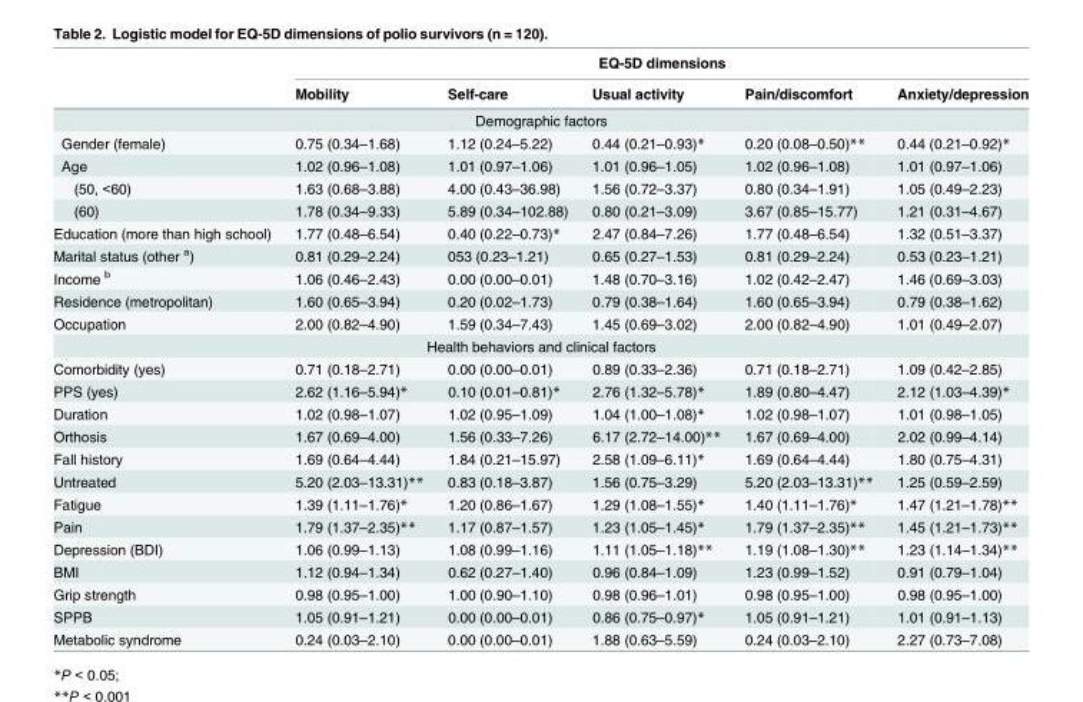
<table><thead><tr><td rowspan="2"></td><td colspan="5">EQ-5D dimensions</td></tr><tr><td>Mobility</td><td>Self-care</td><td>Usual activity</td><td>Pain/discomfort</td><td>Anxiety/depression</td></tr></thead><tbody><tr><td colspan="6">Demographic factors</td></tr><tr><td>Gender (female)</td><td>0.75 (0.34–1.68)</td><td>1.12 (0.24–5.22)</td><td>0.44 (0.21–0.93)*</td><td>0.20 (0.08–0.50)**</td><td>0.44 (0.21–0.92)*</td></tr><tr><td>Age</td><td>1.02 (0.96–1.08)</td><td>1.01 (0.97–1.06)</td><td>1.01 (0.96–1.05)</td><td>1.02 (0.96–1.08)</td><td>1.01 (0.97–1.06)</td></tr><tr><td>(50, &lt;60)</td><td>1.63 (0.68–3.88)</td><td>4.00 (0.43–36.98)</td><td>1.56 (0.72–3.37)</td><td>0.80 (0.34–1.91)</td><td>1.05 (0.49–2.23)</td></tr><tr><td>(60)</td><td>1.78 (0.34–9.33)</td><td>5.89 (0.34–102.88)</td><td>0.80 (0.21–3.09)</td><td>3.67 (0.85–15.77)</td><td>1.21 (0.31–4.67)</td></tr><tr><td>Education (more than high school)</td><td>1.77 (0.48–6.54)</td><td>0.40 (0.22–0.73)*</td><td>2.47 (0.84–7.26)</td><td>1.77 (0.48–6.54)</td><td>1.32 (0.51–3.37)</td></tr><tr><td>Marital status (other <sup>a</sup>)</td><td>0.81 (0.29–2.24)</td><td>053 (0.23–1.21)</td><td>0.65 (0.27–1.53)</td><td>0.81 (0.29–2.24)</td><td>0.53 (0.23–1.21)</td></tr><tr><td>Income <sup>b</sup></td><td>1.06 (0.46–2.43)</td><td>0.00 (0.00–0.01)</td><td>1.48 (0.70–3.16)</td><td>1.02 (0.42–2.47)</td><td>1.46 (0.69–3.03)</td></tr><tr><td>Residence (metropolitan)</td><td>1.60 (0.65–3.94)</td><td>0.20 (0.02–1.73)</td><td>0.79 (0.38–1.64)</td><td>1.60 (0.65–3.94)</td><td>0.79 (0.38–1.62)</td></tr><tr><td>Occupation</td><td>2.00 (0.82–4.90)</td><td>1.59 (0.34–7.43)</td><td>1.45 (0.69–3.02)</td><td>2.00 (0.82–4.90)</td><td>1.01 (0.49–2.07)</td></tr><tr><td colspan="6">Health behaviors and clinical factors</td></tr><tr><td>Comorbidity (yes)</td><td>0.71 (0.18–2.71)</td><td>0.00 (0.00–0.01)</td><td>0.89 (0.33–2.36)</td><td>0.71 (0.18–2.71)</td><td>1.09 (0.42–2.85)</td></tr><tr><td>PPS (yes)</td><td>2.62 (1.16–5.94)*</td><td>0.10 (0.01–0.81)*</td><td>2.76 (1.32–5.78)*</td><td>1.89 (0.80–4.47)</td><td>2.12 (1.03–4.39)*</td></tr><tr><td>Duration</td><td>1.02 (0.98–1.07)</td><td>1.02 (0.95–1.09)</td><td>1.04 (1.00–1.08)*</td><td>1.02 (0.98–1.07)</td><td>1.01 (0.98–1.05)</td></tr><tr><td>Orthosis</td><td>1.67 (0.69–4.00)</td><td>1.56 (0.33–7.26)</td><td>6.17 (2.72–14.00)**</td><td>1.67 (0.69–4.00)</td><td>2.02 (0.99–4.14)</td></tr><tr><td>Fall history</td><td>1.69 (0.64–4.44)</td><td>1.84 (0.21–15.97)</td><td>2.58 (1.09–6.11)*</td><td>1.69 (0.64–4.44)</td><td>1.80 (0.75–4.31)</td></tr><tr><td>Untreated</td><td>5.20 (2.03–13.31)**</td><td>0.83 (0.18–3.87)</td><td>1.56 (0.75–3.29)</td><td>5.20 (2.03–13.31)**</td><td>1.25 (0.59–2.59)</td></tr><tr><td>Fatigue</td><td>1.39 (1.11–1.76)*</td><td>1.20 (0.86–1.67)</td><td>1.29 (1.08–1.55)*</td><td>1.40 (1.11–1.76)*</td><td>1.47 (1.21–1.78)**</td></tr><tr><td>Pain</td><td>1.79 (1.37–2.35)**</td><td>1.17 (0.87–1.57)</td><td>1.23 (1.05–1.45)*</td><td>1.79 (1.37–2.35)**</td><td>1.45 (1.21–1.73)**</td></tr><tr><td>Depression (BDI)</td><td>1.06 (0.99–1.13)</td><td>1.08 (0.99–1.16)</td><td>1.11 (1.05–1.18)**</td><td>1.19 (1.08–1.30)**</td><td>1.23 (1.14–1.34)**</td></tr><tr><td>BMI</td><td>1.12 (0.94–1.34)</td><td>0.62 (0.27–1.40)</td><td>0.96 (0.84–1.09)</td><td>1.23 (0.99–1.52)</td><td>0.91 (0.79–1.04)</td></tr><tr><td>Grip strength</td><td>0.98 (0.95–1.00)</td><td>1.00 (0.90–1.10)</td><td>0.98 (0.96–1.01)</td><td>0.98 (0.95–1.00)</td><td>0.98 (0.95–1.00)</td></tr><tr><td>SPPB</td><td>1.05 (0.91–1.21)</td><td>0.00 (0.00–0.01)</td><td>0.86 (0.75–0.97)*</td><td>1.05 (0.91–1.21)</td><td>1.01 (0.91–1.13)</td></tr><tr><td>Metabolic syndrome</td><td>0.24 (0.03–2.10)</td><td>0.00 (0.00–0.01)</td><td>1.88 (0.63–5.59)</td><td>0.24 (0.03–2.10)</td><td>2.27 (0.73–7.08)</td></tr></tbody></table>